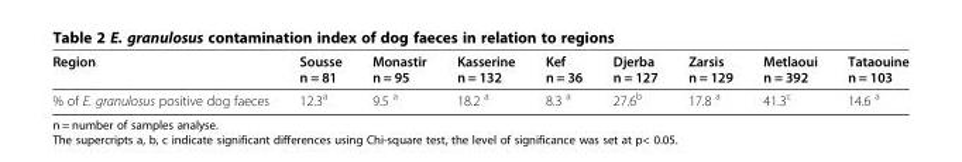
<table><thead><tr><td>Region</td><td>Sousse n = 81</td><td>Monastir n = 95</td><td>Kasserine n = 132</td><td>Kef n = 36</td><td>Djerba n = 127</td><td>Zarsis n = 129</td><td>Metlaoui n = 392</td><td>Tataouine n = 103</td></tr></thead><tbody><tr><td>% of E. granulosus positive dog faeces</td><td>12.3<sup>a</sup></td><td>9.5 <sup>a</sup></td><td>18.2 <sup>a</sup></td><td>8.3 <sup>a</sup></td><td>27.6<sup>b</sup></td><td>17.8 <sup>a</sup></td><td>41.3<sup>c</sup></td><td>14.6 <sup>a</sup></td></tr></tbody></table>